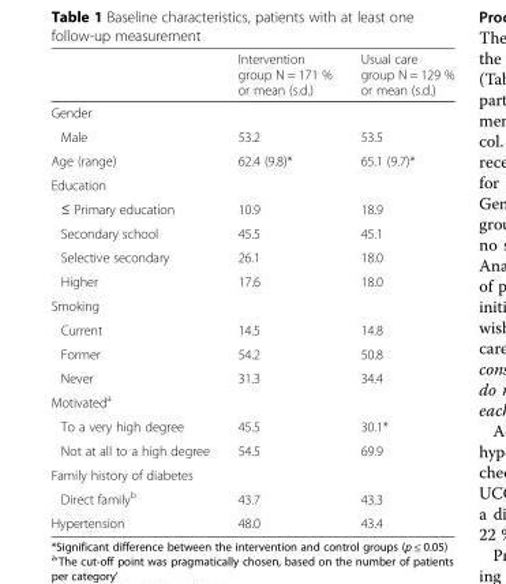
<table><thead><tr><td></td><td>Intervention group N = 171 % or mean (s.d.)</td><td>Usual care group N = 129 % or mean (s.d.)</td></tr></thead><tbody><tr><td colspan="3">Gender</td></tr><tr><td>Male</td><td>53.2</td><td>53.5</td></tr><tr><td>Age (range)</td><td>62.4 (9.8)*</td><td>65.1 (9.7)*</td></tr><tr><td colspan="3">Education</td></tr><tr><td>≤ Primary education</td><td>10.9</td><td>18.9</td></tr><tr><td>Secondary school</td><td>45.5</td><td>45.1</td></tr><tr><td>Selective secondary</td><td>26.1</td><td>18.0</td></tr><tr><td>Higher</td><td>17.6</td><td>18.0</td></tr><tr><td colspan="3">Smoking</td></tr><tr><td>Current</td><td>14.5</td><td>14.8</td></tr><tr><td>Former</td><td>54.2</td><td>50.8</td></tr><tr><td>Never</td><td>31.3</td><td>34.4</td></tr><tr><td colspan="3">Motivated<sup>a</sup></td></tr><tr><td>To a very high degree</td><td>45.5</td><td>30.1*</td></tr><tr><td>Not at all to a high degree</td><td>54.5</td><td>69.9</td></tr><tr><td colspan="3">Family history of diabetes</td></tr><tr><td>Direct family<sup>b</sup></td><td>43.7</td><td>43.3</td></tr><tr><td>Hypertension</td><td>48.0</td><td>43.4</td></tr></tbody></table>